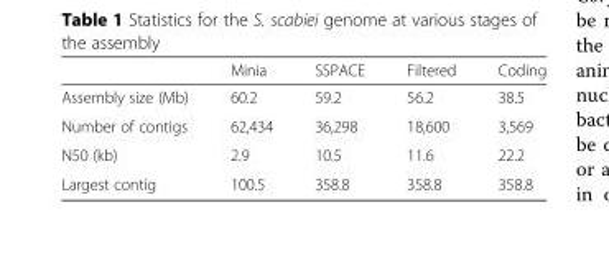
<table><thead><tr><td></td><td>Minia</td><td>SSPACE</td><td>Filtered</td><td>Coding</td></tr></thead><tbody><tr><td>Assembly size (Mb)</td><td>60.2</td><td>59.2</td><td>56.2</td><td>38.5</td></tr><tr><td>Number of contigs</td><td>62,434</td><td>36,298</td><td>18,600</td><td>3,569</td></tr><tr><td>N50 (kb)</td><td>2.9</td><td>10.5</td><td>11.6</td><td>22.2</td></tr><tr><td>Largest contig</td><td>100.5</td><td>358.8</td><td>358.8</td><td>358.8</td></tr></tbody></table>